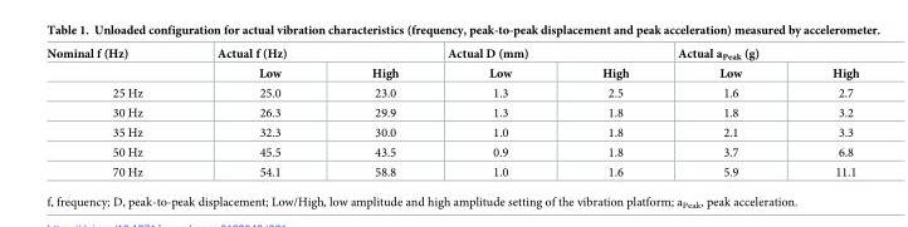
<table><thead><tr><td rowspan="2">Nominal f (Hz)</td><td colspan="2">Actual f (Hz)</td><td colspan="2">Actual D (mm)</td><td colspan="2">Actual a<sub>Peak</sub> (g)</td></tr><tr><td>Low</td><td>High</td><td>Low</td><td>High</td><td>Low</td><td>High</td></tr></thead><tbody><tr><td>25 Hz</td><td>25.0</td><td>23.0</td><td>1.3</td><td>2.5</td><td>1.6</td><td>2.7</td></tr><tr><td>30 Hz</td><td>26.3</td><td>29.9</td><td>1.3</td><td>1.8</td><td>1.8</td><td>3.2</td></tr><tr><td>35 Hz</td><td>32.3</td><td>30.0</td><td>1.0</td><td>1.8</td><td>2.1</td><td>3.3</td></tr><tr><td>50 Hz</td><td>45.5</td><td>43.5</td><td>0.9</td><td>1.8</td><td>3.7</td><td>6.8</td></tr><tr><td>70 Hz</td><td>54.1</td><td>58.8</td><td>1.0</td><td>1.6</td><td>5.9</td><td>11.1</td></tr></tbody></table>